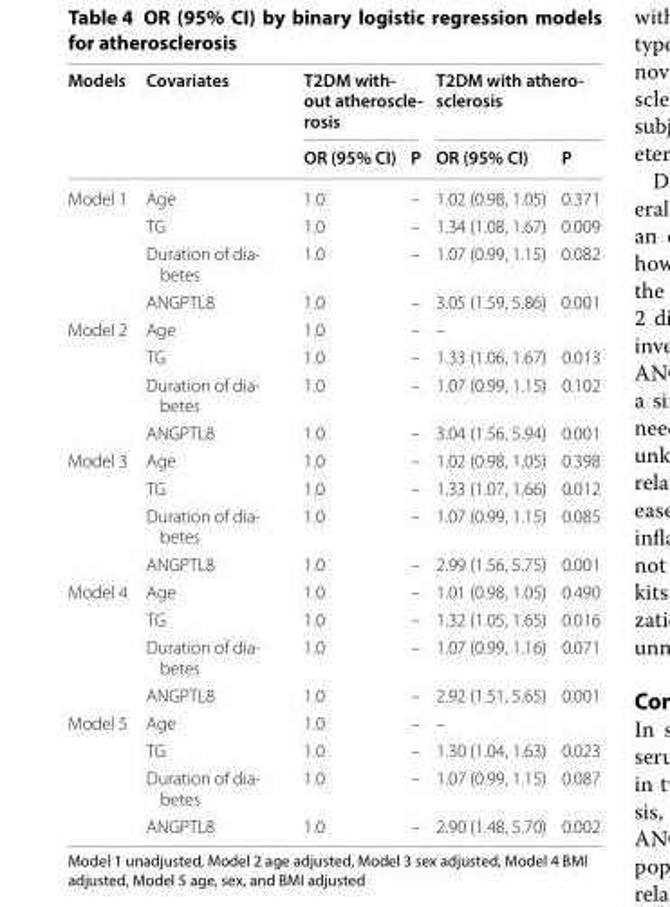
<table><thead><tr><td rowspan="2">Models</td><td rowspan="2">Covariates</td><td colspan="2">T2DM with- out atheroscle- rosis</td><td colspan="2">T2DM with athero- sclerosis</td></tr><tr><td>OR (95% CI)</td><td>P</td><td>OR (95% CI)</td><td>P</td></tr></thead><tbody><tr><td rowspan="4">Model 1</td><td>Age</td><td>1.0</td><td>–</td><td>1.02 (0.98, 1.05)</td><td>0.371</td></tr><tr><td>TG</td><td>1.0</td><td>–</td><td>1.34 (1.08, 1.67)</td><td>0.009</td></tr><tr><td>Duration of dia- betes</td><td>1.0</td><td>–</td><td>1.07 (0.99, 1.15)</td><td>0.082</td></tr><tr><td>ANGPTL8</td><td>1.0</td><td>–</td><td>3.05 (1.59, 5.86)</td><td>0.001</td></tr><tr><td rowspan="4">Model 2</td><td>Age</td><td>1.0</td><td>–</td><td>–</td><td></td></tr><tr><td>TG</td><td>1.0</td><td>–</td><td>1.33 (1.06, 1.67)</td><td>0.013</td></tr><tr><td>Duration of dia- betes</td><td>1.0</td><td>–</td><td>1.07 (0.99, 1.15)</td><td>0.102</td></tr><tr><td>ANGPTL8</td><td>1.0</td><td>–</td><td>3.04 (1.56, 5.94)</td><td>0.001</td></tr><tr><td rowspan="4">Model 3</td><td>Age</td><td>1.0</td><td>–</td><td>1.02 (0.98, 1.05)</td><td>0.398</td></tr><tr><td>TG</td><td>1.0</td><td>–</td><td>1.33 (1.07, 1.66)</td><td>0.012</td></tr><tr><td>Duration of dia- betes</td><td>1.0</td><td>–</td><td>1.07 (0.99, 1.15)</td><td>0.085</td></tr><tr><td>ANGPTL8</td><td>1.0</td><td>–</td><td>2.99 (1.56, 5.75)</td><td>0.001</td></tr><tr><td rowspan="4">Model 4</td><td>Age</td><td>1.0</td><td>–</td><td>1.01 (0.98, 1.05)</td><td>0.490</td></tr><tr><td>TG</td><td>1.0</td><td>–</td><td>1.32 (1.05, 1.65)</td><td>0.016</td></tr><tr><td>Duration of dia- betes</td><td>1.0</td><td>–</td><td>1.07 (0.99, 1.16)</td><td>0.071</td></tr><tr><td>ANGPTL8</td><td>1.0</td><td>–</td><td>2.92 (1.51, 5.65)</td><td>0.001</td></tr><tr><td rowspan="4">Model 5</td><td>Age</td><td>1.0</td><td>–</td><td>–</td><td></td></tr><tr><td>TG</td><td>1.0</td><td>–</td><td>1.30 (1.04, 1.63)</td><td>0.023</td></tr><tr><td>Duration of dia- betes</td><td>1.0</td><td>–</td><td>1.07 (0.99, 1.15)</td><td>0.087</td></tr><tr><td>ANGPTL8</td><td>1.0</td><td>–</td><td>2.90 (1.48, 5.70)</td><td>0.002</td></tr></tbody></table>